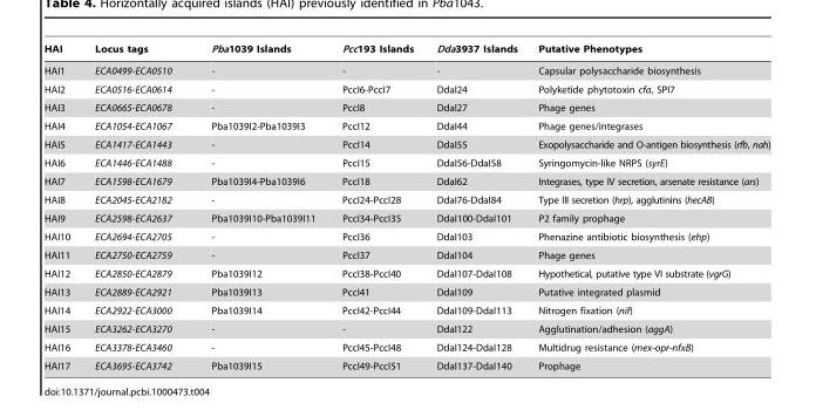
<table><thead><tr><td>HAI</td><td>Locus tags</td><td>Pba1039 Islands</td><td>Pcc193 Islands</td><td>Dda3937 Islands</td><td>Putative Phenotypes</td></tr></thead><tbody><tr><td>HAI1</td><td>ECA0499-ECA0510</td><td>-</td><td>-</td><td>-</td><td>Capsular polysaccharide biosynthesis</td></tr><tr><td>HAI2</td><td>ECA0516-ECA0614</td><td>-</td><td>PccI6-PccI7</td><td>DdaI24</td><td>Polyketide phytotoxin cfa, SPI7</td></tr><tr><td>HAI3</td><td>ECA0665-ECA0678</td><td>-</td><td>PccI8</td><td>DdaI27</td><td>Phage genes</td></tr><tr><td>HAI4</td><td>ECA1054-ECA1067</td><td>Pba1039I2-Pba1039I3</td><td>PccI12</td><td>DdaI44</td><td>Phage genes/integrases</td></tr><tr><td>HAI5</td><td>ECA1417-ECA1443</td><td>-</td><td>PccI14</td><td>DdaI55</td><td>Exopolysaccharide and O-antigen biosynthesis (rfb, nah)</td></tr><tr><td>HAI6</td><td>ECA1446-ECA1488</td><td>-</td><td>PccI15</td><td>DdaI56-DdaI58</td><td>Syringomycin-like NRPS (syrE)</td></tr><tr><td>HAI7</td><td>ECA1598-ECA1679</td><td>Pba1039I4-Pba1039I6</td><td>PccI18</td><td>DdaI62</td><td>Integrases, type IV secretion, arsenate resistance (ars)</td></tr><tr><td>HAI8</td><td>ECA2045-ECA2182</td><td>-</td><td>PccI24-PccI28</td><td>DdaI76-DdaI84</td><td>Type III secretion (hrp), agglutinins (hecAB)</td></tr><tr><td>HAI9</td><td>ECA2598-ECA2637</td><td>Pba1039I10-Pba1039I11</td><td>PccI34-PccI35</td><td>DdaI100-DdaI101</td><td>P2 family prophage</td></tr><tr><td>HAI10</td><td>ECA2694-ECA2705</td><td>-</td><td>PccI36</td><td>DdaI103</td><td>Phenazine antibiotic biosynthesis (ehp)</td></tr><tr><td>HAI11</td><td>ECA2750-ECA2759</td><td>-</td><td>PccI37</td><td>DdaI104</td><td>Phage genes</td></tr><tr><td>HAI12</td><td>ECA2850-ECA2879</td><td>Pba1039I12</td><td>PccI38-PccI40</td><td>DdaI107-DdaI108</td><td>Hypothetical, putative type VI substrate (vgrG)</td></tr><tr><td>HAI13</td><td>ECA2889-ECA2921</td><td>Pba1039I13</td><td>PccI41</td><td>DdaI109</td><td>Putative integrated plasmid</td></tr><tr><td>HAI14</td><td>ECA2922-ECA3000</td><td>Pba1039I14</td><td>PccI42-PccI44</td><td>DdaI109-DdaI113</td><td>Nitrogen fixation (nif)</td></tr><tr><td>HAI15</td><td>ECA3262-ECA3270</td><td>-</td><td>-</td><td>DdaI122</td><td>Agglutination/adhesion (aggA)</td></tr><tr><td>HAI16</td><td>ECA3378-ECA3460</td><td>-</td><td>PccI45-PccI48</td><td>DdaI124-DdaI128</td><td>Multidrug resistance (mex-opr-nfxB)</td></tr><tr><td>HAI17</td><td>ECA3695-ECA3742</td><td>Pba1039I15</td><td>PccI49-PccI51</td><td>DdaI137-DdaI140</td><td>Prophage</td></tr></tbody></table>